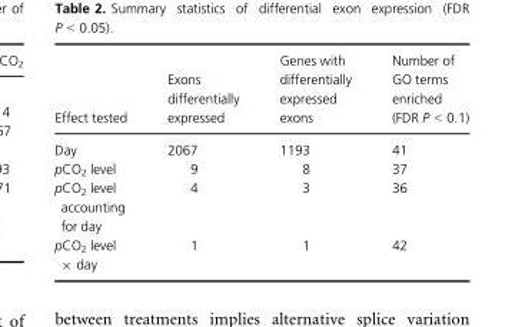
<table><thead><tr><td>Effect tested</td><td>Exons differentially expressed</td><td>Genes with differentially expressed exons</td><td>Number of GO terms enriched (FDR P &lt; 0.1)</td></tr></thead><tbody><tr><td>Day</td><td>2067</td><td>1193</td><td>41</td></tr><tr><td>pCO<sub>2</sub> level</td><td>9</td><td>8</td><td>37</td></tr><tr><td>pCO<sub>2</sub> level accounting for day</td><td>4</td><td>3</td><td>36</td></tr><tr><td>pCO<sub>2</sub> level × day</td><td>1</td><td>1</td><td>42</td></tr></tbody></table>